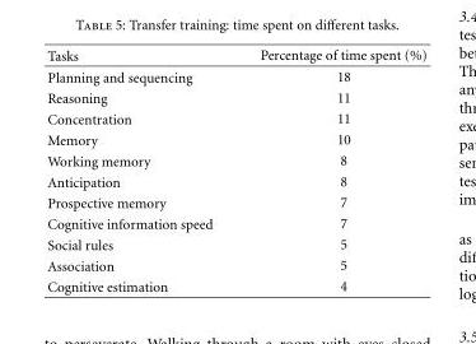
<table><thead><tr><td>Tasks</td><td>Percentage of time spent (%)</td></tr></thead><tbody><tr><td>Planning and sequencing</td><td>18</td></tr><tr><td>Reasoning</td><td>11</td></tr><tr><td>Concentration</td><td>11</td></tr><tr><td>Memory</td><td>10</td></tr><tr><td>Working memory</td><td>8</td></tr><tr><td>Anticipation</td><td>8</td></tr><tr><td>Prospective memory</td><td>7</td></tr><tr><td>Cognitive information speed</td><td>7</td></tr><tr><td>Social rules</td><td>5</td></tr><tr><td>Association</td><td>5</td></tr><tr><td>Cognitive estimation</td><td>4</td></tr></tbody></table>